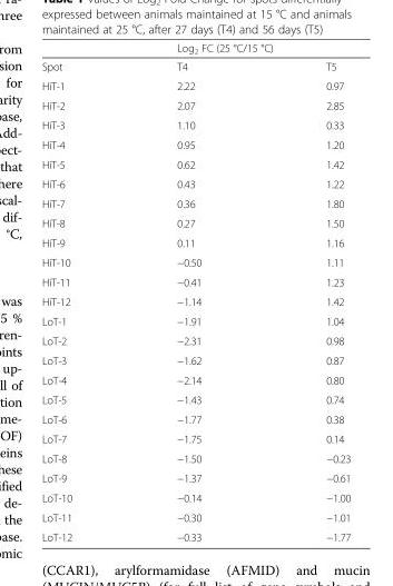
<table><thead><tr><td rowspan="2">Spot</td><td colspan="2">Log<sub>2</sub> FC (25 °C/15 °C)</td></tr><tr><td>T4</td><td>T5</td></tr></thead><tbody><tr><td>HiT-1</td><td>2.22</td><td>0.97</td></tr><tr><td>HiT-2</td><td>2.07</td><td>2.85</td></tr><tr><td>HiT-3</td><td>1.10</td><td>0.33</td></tr><tr><td>HiT-4</td><td>0.95</td><td>1.20</td></tr><tr><td>HiT-5</td><td>0.62</td><td>1.42</td></tr><tr><td>HiT-6</td><td>0.43</td><td>1.22</td></tr><tr><td>HiT-7</td><td>0.36</td><td>1.80</td></tr><tr><td>HiT-8</td><td>0.27</td><td>1.50</td></tr><tr><td>HiT-9</td><td>0.11</td><td>1.16</td></tr><tr><td>HiT-10</td><td>−0.50</td><td>1.11</td></tr><tr><td>HiT-11</td><td>−0.41</td><td>1.23</td></tr><tr><td>HiT-12</td><td>−1.14</td><td>1.42</td></tr><tr><td>LoT-1</td><td>−1.91</td><td>1.04</td></tr><tr><td>LoT-2</td><td>−2.31</td><td>0.98</td></tr><tr><td>LoT-3</td><td>−1.62</td><td>0.87</td></tr><tr><td>LoT-4</td><td>−2.14</td><td>0.80</td></tr><tr><td>LoT-5</td><td>−1.43</td><td>0.74</td></tr><tr><td>LoT-6</td><td>−1.77</td><td>0.38</td></tr><tr><td>LoT-7</td><td>−1.75</td><td>0.14</td></tr><tr><td>LoT-8</td><td>−1.50</td><td>−0.23</td></tr><tr><td>LoT-9</td><td>−1.37</td><td>−0.61</td></tr><tr><td>LoT-10</td><td>−0.14</td><td>−1.00</td></tr><tr><td>LoT-11</td><td>−0.30</td><td>−1.01</td></tr><tr><td>LoT-12</td><td>−0.33</td><td>−1.77</td></tr></tbody></table>